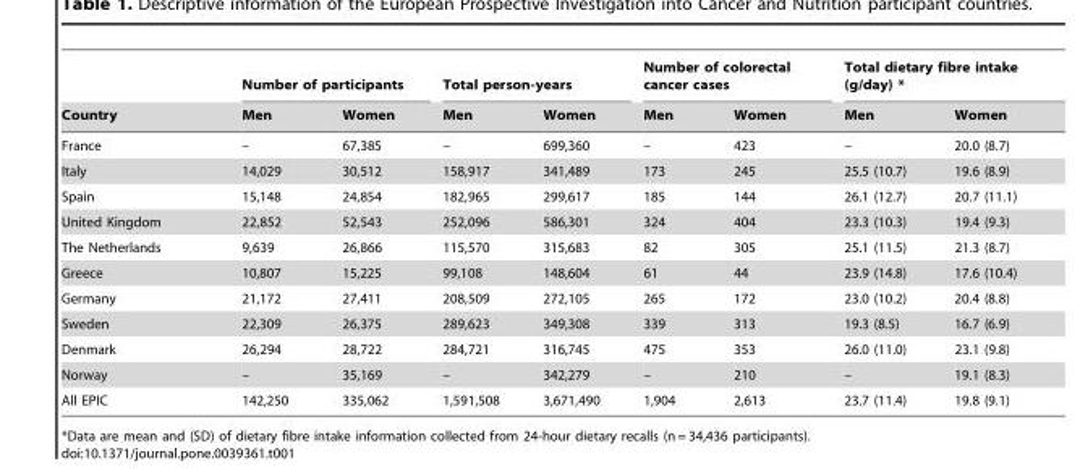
<table><thead><tr><td rowspan="2">Country</td><td colspan="2">Number of participants</td><td colspan="2">Total person-years</td><td colspan="2">Number of colorectal cancer cases</td><td colspan="2">Total dietary fibre intake (g/day) *</td></tr><tr><td>Men</td><td>Women</td><td>Men</td><td>Women</td><td>Men</td><td>Women</td><td>Men</td><td>Women</td></tr></thead><tbody><tr><td>France</td><td>–</td><td>67,385</td><td>–</td><td>699,360</td><td>–</td><td>423</td><td>–</td><td>20.0 (8.7)</td></tr><tr><td>Italy</td><td>14,029</td><td>30,512</td><td>158,917</td><td>341,489</td><td>173</td><td>245</td><td>25.5 (10.7)</td><td>19.6 (8.9)</td></tr><tr><td>Spain</td><td>15,148</td><td>24,854</td><td>182,965</td><td>299,617</td><td>185</td><td>144</td><td>26.1 (12.7)</td><td>20.7 (11.1)</td></tr><tr><td>United Kingdom</td><td>22,852</td><td>52,543</td><td>252,096</td><td>586,301</td><td>324</td><td>404</td><td>23.3 (10.3)</td><td>19.4 (9.3)</td></tr><tr><td>The Netherlands</td><td>9,639</td><td>26,866</td><td>115,570</td><td>315,683</td><td>82</td><td>305</td><td>25.1 (11.5)</td><td>21.3 (8.7)</td></tr><tr><td>Greece</td><td>10,807</td><td>15,225</td><td>99,108</td><td>148,604</td><td>61</td><td>44</td><td>23.9 (14.8)</td><td>17.6 (10.4)</td></tr><tr><td>Germany</td><td>21,172</td><td>27,411</td><td>208,509</td><td>272,105</td><td>265</td><td>172</td><td>23.0 (10.2)</td><td>20.4 (8.8)</td></tr><tr><td>Sweden</td><td>22,309</td><td>26,375</td><td>289,623</td><td>349,308</td><td>339</td><td>313</td><td>19.3 (8.5)</td><td>16.7 (6.9)</td></tr><tr><td>Denmark</td><td>26,294</td><td>28,722</td><td>284,721</td><td>316,745</td><td>475</td><td>353</td><td>26.0 (11.0)</td><td>23.1 (9.8)</td></tr><tr><td>Norway</td><td>–</td><td>35,169</td><td>–</td><td>342,279</td><td>–</td><td>210</td><td>–</td><td>19.1 (8.3)</td></tr><tr><td>All EPIC</td><td>142,250</td><td>335,062</td><td>1,591,508</td><td>3,671,490</td><td>1,904</td><td>2,613</td><td>23.7 (11.4)</td><td>19.8 (9.1)</td></tr></tbody></table>